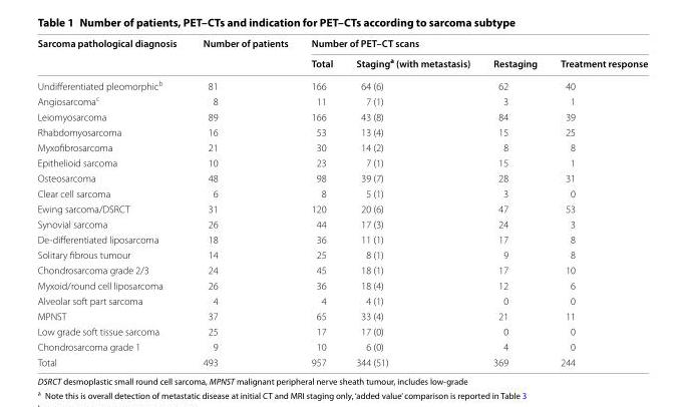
<table><thead><tr><td rowspan="2">Sarcoma pathological diagnosis</td><td rowspan="2">Number of patients</td><td colspan="4">Number of PET–CT scans</td></tr><tr><td>Total</td><td>Staging<sup>a</sup> (with metastasis)</td><td>Restaging</td><td>Treatment response</td></tr></thead><tbody><tr><td>Undifferentiated pleomorphic<sup>b</sup></td><td>81</td><td>166</td><td>64 (6)</td><td>62</td><td>40</td></tr><tr><td>Angiosarcoma<sup>c</sup></td><td>8</td><td>11</td><td>7 (1)</td><td>3</td><td>1</td></tr><tr><td>Leiomyosarcoma</td><td>89</td><td>166</td><td>43 (8)</td><td>84</td><td>39</td></tr><tr><td>Rhabdomyosarcoma</td><td>16</td><td>53</td><td>13 (4)</td><td>15</td><td>25</td></tr><tr><td>Myxofibrosarcoma</td><td>21</td><td>30</td><td>14 (2)</td><td>8</td><td>8</td></tr><tr><td>Epithelioid sarcoma</td><td>10</td><td>23</td><td>7 (1)</td><td>15</td><td>1</td></tr><tr><td>Osteosarcoma</td><td>48</td><td>98</td><td>39 (7)</td><td>28</td><td>31</td></tr><tr><td>Clear cell sarcoma</td><td>6</td><td>8</td><td>5 (1)</td><td>3</td><td>0</td></tr><tr><td>Ewing sarcoma/DSRCT</td><td>31</td><td>120</td><td>20 (6)</td><td>47</td><td>53</td></tr><tr><td>Synovial sarcoma</td><td>26</td><td>44</td><td>17 (3)</td><td>24</td><td>3</td></tr><tr><td>De-differentiated liposarcoma</td><td>18</td><td>36</td><td>11 (1)</td><td>17</td><td>8</td></tr><tr><td>Solitary fibrous tumour</td><td>14</td><td>25</td><td>8 (1)</td><td>9</td><td>8</td></tr><tr><td>Chondrosarcoma grade 2/3</td><td>24</td><td>45</td><td>18 (1)</td><td>17</td><td>10</td></tr><tr><td>Myxoid/round cell liposarcoma</td><td>26</td><td>36</td><td>18 (4)</td><td>12</td><td>6</td></tr><tr><td>Alveolar soft part sarcoma</td><td>4</td><td>4</td><td>4 (1)</td><td>0</td><td>0</td></tr><tr><td>MPNST</td><td>37</td><td>65</td><td>33 (4)</td><td>21</td><td>11</td></tr><tr><td>Low grade soft tissue sarcoma</td><td>25</td><td>17</td><td>17 (0)</td><td>0</td><td>0</td></tr><tr><td>Chondrosarcoma grade 1</td><td>9</td><td>10</td><td>6 (0)</td><td>4</td><td>0</td></tr><tr><td>Total</td><td>493</td><td>957</td><td>344 (51)</td><td>369</td><td>244</td></tr></tbody></table>